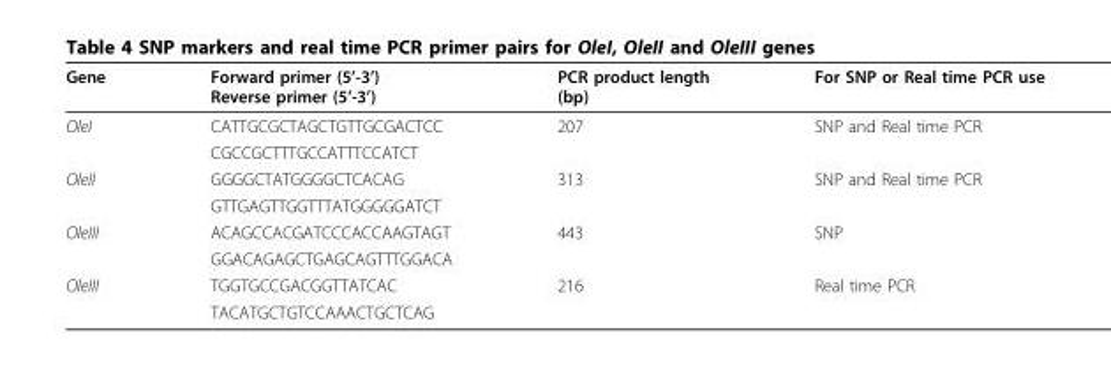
<table><thead><tr><td>Gene</td><td>Forward primer (5’-3’) Reverse primer (5’-3’)</td><td>PCR product length (bp)</td><td>For SNP or Real time PCR use</td></tr></thead><tbody><tr><td rowspan="2">OleI</td><td>CATTGCGCTAGCTGTTGCGACTCC</td><td>207</td><td>SNP and Real time PCR</td></tr><tr><td>CGCCGCTTTGCCATTTCCATCT</td><td></td><td></td></tr><tr><td rowspan="2">OleII</td><td>GGGGCTATGGGGCTCACAG</td><td>313</td><td>SNP and Real time PCR</td></tr><tr><td>GTTGAGTTGGTTTATGGGGGATCT</td><td></td><td></td></tr><tr><td rowspan="2">OleIII</td><td>ACAGCCACGATCCCACCAAGTAGT</td><td>443</td><td>SNP</td></tr><tr><td>GGACAGAGCTGAGCAGTTTGGACA</td><td></td><td></td></tr><tr><td rowspan="2">OleIII</td><td>TGGTGCCGACGGTTATCAC</td><td>216</td><td>Real time PCR</td></tr><tr><td>TACATGCTGTCCAAACTGCTCAG</td><td></td><td></td></tr></tbody></table>